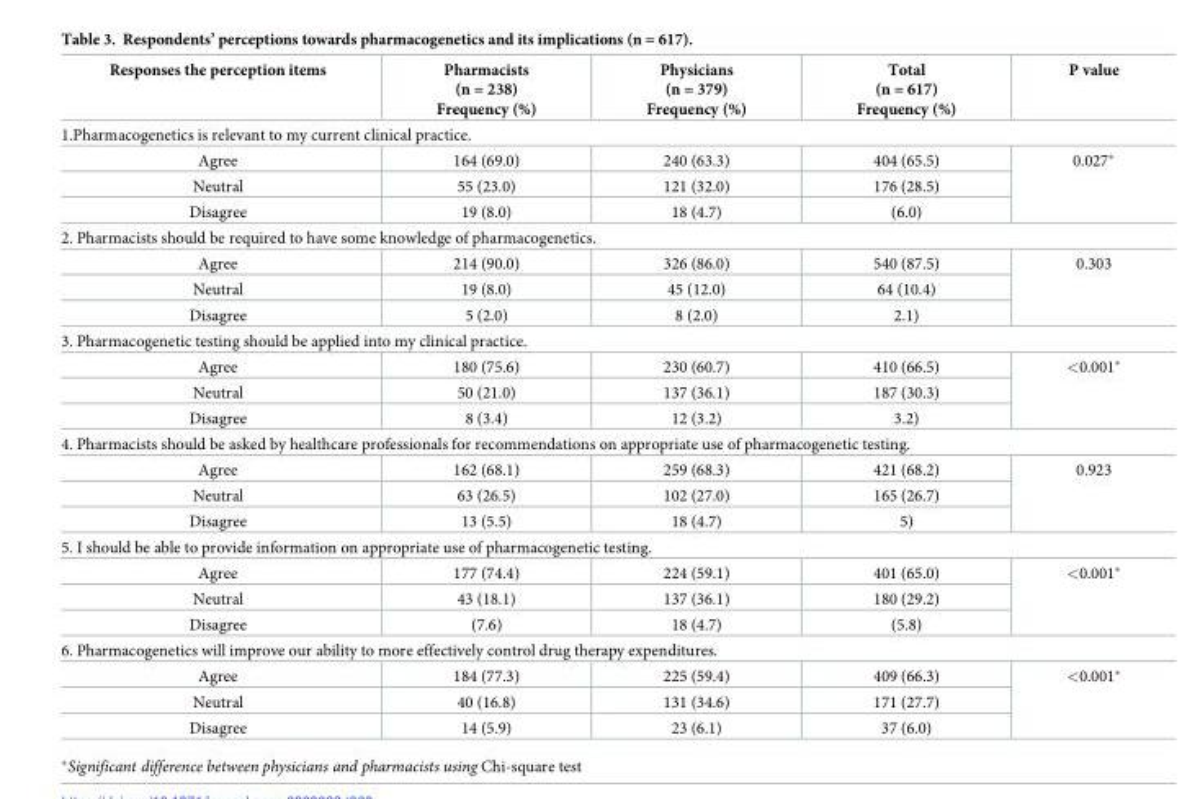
<table><thead><tr><td>Responses the perception items</td><td>Pharmacists (n = 238) Frequency (%)</td><td>Physicians (n = 379) Frequency (%)</td><td>Total (n = 617) Frequency (%)</td><td>P value</td></tr></thead><tbody><tr><td colspan="5">1.Pharmacogenetics is relevant to my current clinical practice.</td></tr><tr><td>Agree</td><td>164 (69.0)</td><td>240 (63.3)</td><td>404 (65.5)</td><td rowspan="3">0.027*</td></tr><tr><td>Neutral</td><td>55 (23.0)</td><td>121 (32.0)</td><td>176 (28.5)</td></tr><tr><td>Disagree</td><td>19 (8.0)</td><td>18 (4.7)</td><td>(6.0)</td></tr><tr><td colspan="5">2. Pharmacists should be required to have some knowledge of pharmacogenetics.</td></tr><tr><td>Agree</td><td>214 (90.0)</td><td>326 (86.0)</td><td>540 (87.5)</td><td rowspan="3">0.303</td></tr><tr><td>Neutral</td><td>19 (8.0)</td><td>45 (12.0)</td><td>64 (10.4)</td></tr><tr><td>Disagree</td><td>5 (2.0)</td><td>8 (2.0)</td><td>2.1)</td></tr><tr><td colspan="5">3. Pharmacogenetic testing should be applied into my clinical practice.</td></tr><tr><td>Agree</td><td>180 (75.6)</td><td>230 (60.7)</td><td>410 (66.5)</td><td rowspan="3">&lt;0.001*</td></tr><tr><td>Neutral</td><td>50 (21.0)</td><td>137 (36.1)</td><td>187 (30.3)</td></tr><tr><td>Disagree</td><td>8 (3.4)</td><td>12 (3.2)</td><td>3.2)</td></tr><tr><td colspan="5">4. Pharmacists should be asked by healthcare professionals for recommendations on appropriate use of pharmacogenetic testing.</td></tr><tr><td>Agree</td><td>162 (68.1)</td><td>259 (68.3)</td><td>421 (68.2)</td><td rowspan="3">0.923</td></tr><tr><td>Neutral</td><td>63 (26.5)</td><td>102 (27.0)</td><td>165 (26.7)</td></tr><tr><td>Disagree</td><td>13 (5.5)</td><td>18 (4.7)</td><td>5)</td></tr><tr><td colspan="5">5. I should be able to provide information on appropriate use of pharmacogenetic testing.</td></tr><tr><td>Agree</td><td>177 (74.4)</td><td>224 (59.1)</td><td>401 (65.0)</td><td rowspan="3">&lt;0.001*</td></tr><tr><td>Neutral</td><td>43 (18.1)</td><td>137 (36.1)</td><td>180 (29.2)</td></tr><tr><td>Disagree</td><td>(7.6)</td><td>18 (4.7)</td><td>(5.8)</td></tr><tr><td colspan="5">6. Pharmacogenetics will improve our ability to more effectively control drug therapy expenditures.</td></tr><tr><td>Agree</td><td>184 (77.3)</td><td>225 (59.4)</td><td>409 (66.3)</td><td rowspan="3">&lt;0.001*</td></tr><tr><td>Neutral</td><td>40 (16.8)</td><td>131 (34.6)</td><td>171 (27.7)</td></tr><tr><td>Disagree</td><td>14 (5.9)</td><td>23 (6.1)</td><td>37 (6.0)</td></tr></tbody></table>